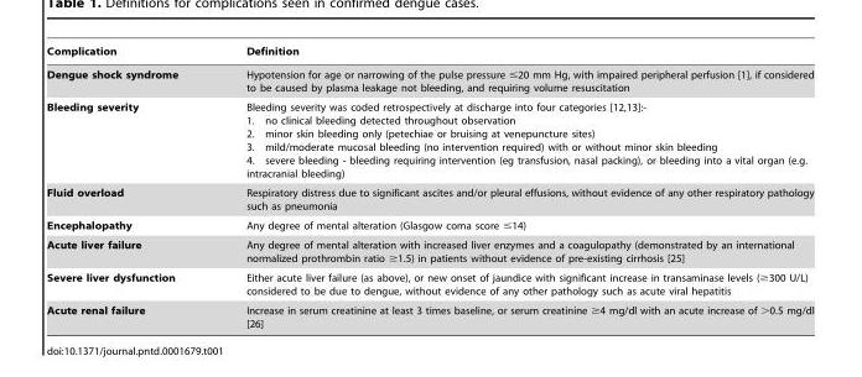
<table><thead><tr><td>Complication</td><td>Definition</td></tr></thead><tbody><tr><td>Dengue shock syndrome</td><td>Hypotension for age or narrowing of the pulse pressure ≤20 mm Hg, with impaired peripheral perfusion [1], if considered to be caused by plasma leakage not bleeding, and requiring volume resuscitation</td></tr><tr><td>Bleeding severity</td><td>Bleeding severity was coded retrospectively at discharge into four categories [12,13]:- 1. no clinical bleeding detected throughout observation 2. minor skin bleeding only (petechiae or bruising at venepuncture sites) 3. mild/moderate mucosal bleeding (no intervention required) with or without minor skin bleeding 4. severe bleeding - bleeding requiring intervention (eg transfusion, nasal packing), or bleeding into a vital organ (e.g. intracranial bleeding)</td></tr><tr><td>Fluid overload</td><td>Respiratory distress due to significant ascites and/or pleural effusions, without evidence of any other respiratory pathology such as pneumonia</td></tr><tr><td>Encephalopathy</td><td>Any degree of mental alteration (Glasgow coma score ≤14)</td></tr><tr><td>Acute liver failure</td><td>Any degree of mental alteration with increased liver enzymes and a coagulopathy (demonstrated by an international normalized prothrombin ratio ≥1.5) in patients without evidence of pre-existing cirrhosis [25]</td></tr><tr><td>Severe liver dysfunction</td><td>Either acute liver failure (as above), or new onset of jaundice with significant increase in transaminase levels (≥300 U/L) considered to be due to dengue, without evidence of any other pathology such as acute viral hepatitis</td></tr><tr><td>Acute renal failure</td><td>Increase in serum creatinine at least 3 times baseline, or serum creatinine ≥4 mg/dl with an acute increase of &gt;0.5 mg/dl [26]</td></tr></tbody></table>